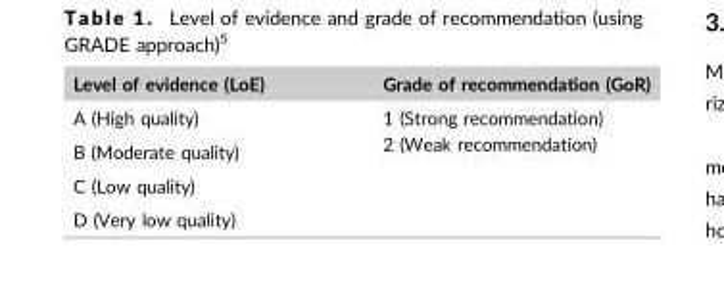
<table><thead><tr><td>Level of evidence (LoE)</td><td>Grade of recommendation (GoR)</td></tr></thead><tbody><tr><td>A (High quality)</td><td rowspan="4">1 (Strong recommendation) 2 (Weak recommendation)</td></tr><tr><td>B (Moderate quality)</td></tr><tr><td>C (Low quality)</td></tr><tr><td>D (Very low quality)</td></tr></tbody></table>